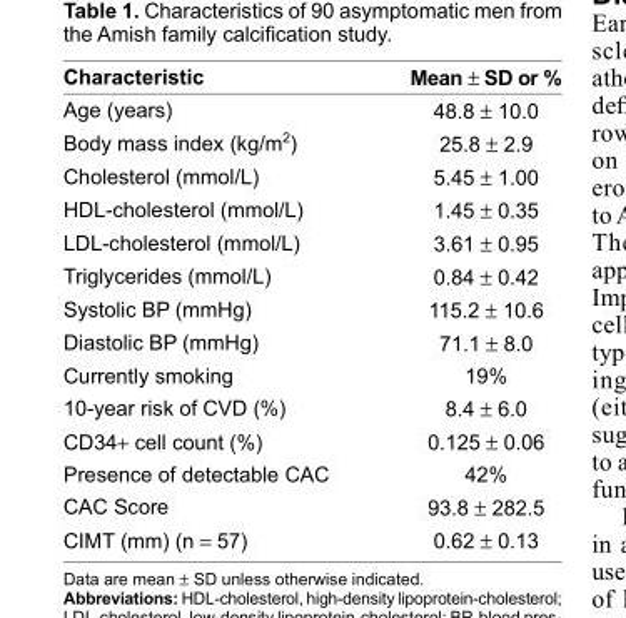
<table><thead><tr><td>Characteristic</td><td>Mean ± SD or %</td></tr></thead><tbody><tr><td>Age (years)</td><td>48.8 ± 10.0</td></tr><tr><td>Body mass index (kg/m<sup>2</sup>)</td><td>25.8 ± 2.9</td></tr><tr><td>Cholesterol (mmol/L)</td><td>5.45 ± 1.00</td></tr><tr><td>HDL-cholesterol (mmol/L)</td><td>1.45 ± 0.35</td></tr><tr><td>LDL-cholesterol (mmol/L)</td><td>3.61 ± 0.95</td></tr><tr><td>Triglycerides (mmol/L)</td><td>0.84 ± 0.42</td></tr><tr><td>Systolic BP (mmHg)</td><td>115.2 ± 10.6</td></tr><tr><td>Diastolic BP (mmHg)</td><td>71.1 ± 8.0</td></tr><tr><td>Currently smoking</td><td>19%</td></tr><tr><td>10-year risk of CVD (%)</td><td>8.4 ± 6.0</td></tr><tr><td>CD34+ cell count (%)</td><td>0.125 ± 0.06</td></tr><tr><td>Presence of detectable CAC</td><td>42%</td></tr><tr><td>CAC Score</td><td>93.8 ± 282.5</td></tr><tr><td>CIMT (mm) (n = 57)</td><td>0.62 ± 0.13</td></tr></tbody></table>